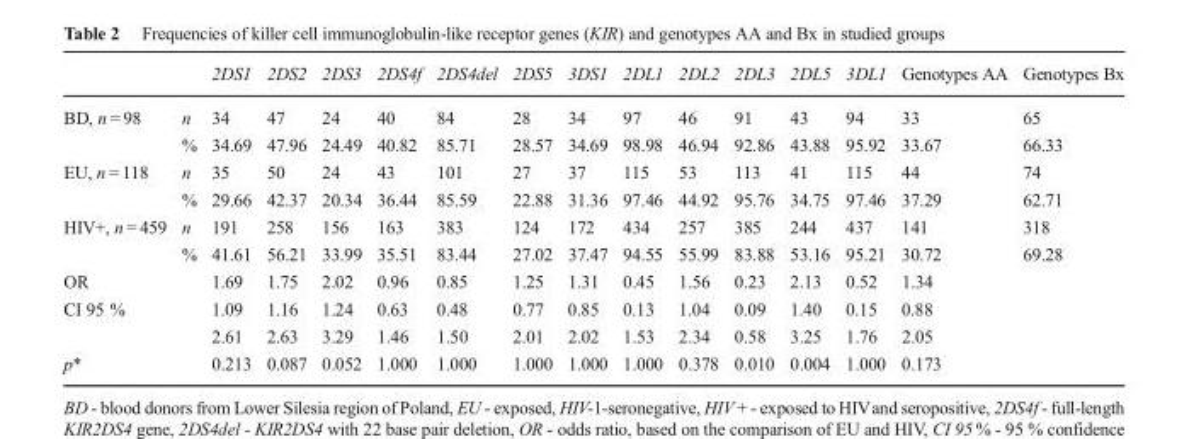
<table><thead><tr><td></td><td></td><td>2DS1</td><td>2DS2</td><td>2DS3</td><td>2DS4f</td><td>2DS4del</td><td>2DS5</td><td>3DS1</td><td>2DL1</td><td>2DL2</td><td>2DL3</td><td>2DL5</td><td>3DL1</td><td>Genotypes AA</td><td>Genotypes Bx</td></tr></thead><tbody><tr><td rowspan="2">BD, n = 98</td><td>n</td><td>34</td><td>47</td><td>24</td><td>40</td><td>84</td><td>28</td><td>34</td><td>97</td><td>46</td><td>91</td><td>43</td><td>94</td><td>33</td><td>65</td></tr><tr><td>%</td><td>34.69</td><td>47.96</td><td>24.49</td><td>40.82</td><td>85.71</td><td>28.57</td><td>34.69</td><td>98.98</td><td>46.94</td><td>92.86</td><td>43.88</td><td>95.92</td><td>33.67</td><td>66.33</td></tr><tr><td rowspan="2">EU, n = 118</td><td>n</td><td>35</td><td>50</td><td>24</td><td>43</td><td>101</td><td>27</td><td>37</td><td>115</td><td>53</td><td>113</td><td>41</td><td>115</td><td>44</td><td>74</td></tr><tr><td>%</td><td>29.66</td><td>42.37</td><td>20.34</td><td>36.44</td><td>85.59</td><td>22.88</td><td>31.36</td><td>97.46</td><td>44.92</td><td>95.76</td><td>34.75</td><td>97.46</td><td>37.29</td><td>62.71</td></tr><tr><td rowspan="2">HIV+, n = 459</td><td>n</td><td>191</td><td>258</td><td>156</td><td>163</td><td>383</td><td>124</td><td>172</td><td>434</td><td>257</td><td>385</td><td>244</td><td>437</td><td>141</td><td>318</td></tr><tr><td>%</td><td>41.61</td><td>56.21</td><td>33.99</td><td>35.51</td><td>83.44</td><td>27.02</td><td>37.47</td><td>94.55</td><td>55.99</td><td>83.88</td><td>53.16</td><td>95.21</td><td>30.72</td><td>69.28</td></tr><tr><td colspan="2">OR</td><td>1.69</td><td>1.75</td><td>2.02</td><td>0.96</td><td>0.85</td><td>1.25</td><td>1.31</td><td>0.45</td><td>1.56</td><td>0.23</td><td>2.13</td><td>0.52</td><td colspan="2">1.34</td></tr><tr><td rowspan="2" colspan="2">CI 95 %</td><td>1.09</td><td>1.16</td><td>1.24</td><td>0.63</td><td>0.48</td><td>0.77</td><td>0.85</td><td>0.13</td><td>1.04</td><td>0.09</td><td>1.40</td><td>0.15</td><td colspan="2">0.88</td></tr><tr><td>2.61</td><td>2.63</td><td>3.29</td><td>1.46</td><td>1.50</td><td>2.01</td><td>2.02</td><td>1.53</td><td>2.34</td><td>0.58</td><td>3.25</td><td>1.76</td><td colspan="2">2.05</td></tr><tr><td colspan="2">p*</td><td>0.213</td><td>0.087</td><td>0.052</td><td>1.000</td><td>1.000</td><td>1.000</td><td>1.000</td><td>1.000</td><td>0.378</td><td>0.010</td><td>0.004</td><td>1.000</td><td colspan="2">0.173</td></tr></tbody></table>